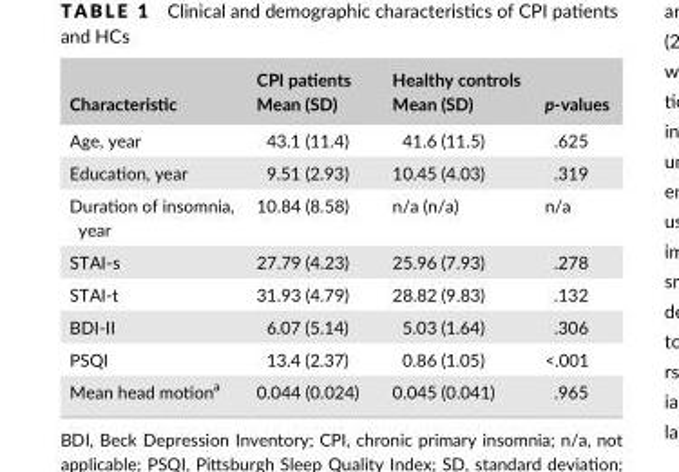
<table><thead><tr><td>Characteristic</td><td>CPI patients Mean (SD)</td><td>Healthy controls Mean (SD)</td><td>p- values</td></tr></thead><tbody><tr><td>Age, year</td><td>43.1 (11.4)</td><td>41.6 (11.5)</td><td>.625</td></tr><tr><td>Education, year</td><td>9.51 (2.93)</td><td>10.45 (4.03)</td><td>.319</td></tr><tr><td>Duration of insomnia, year</td><td>10.84 (8.58)</td><td>n/a (n/a)</td><td>n/a</td></tr><tr><td>STAI- s</td><td>27.79 (4.23)</td><td>25.96 (7.93)</td><td>.278</td></tr><tr><td>STAI- t</td><td>31.93 (4.79)</td><td>28.82 (9.83)</td><td>.132</td></tr><tr><td>BDI- II</td><td>6.07 (5.14)</td><td>5.03 (1.64)</td><td>.306</td></tr><tr><td>PSQI</td><td>13.4 (2.37)</td><td>0.86 (1.05)</td><td>&lt;.001</td></tr><tr><td>Mean head motion<sup>a</sup></td><td>0.044 (0.024)</td><td>0.045 (0.041)</td><td>.965</td></tr></tbody></table>